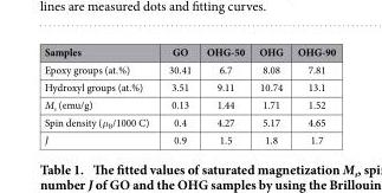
<table><thead><tr><td>Samples</td><td>GO</td><td>OHG-50</td><td>OHG</td><td>OHG-90</td></tr></thead><tbody><tr><td>Epoxy groups (at.%)</td><td>30.41</td><td>6.7</td><td>8.08</td><td>7.81</td></tr><tr><td>Hydroxyl groups (at.%)</td><td>3.51</td><td>9.11</td><td>10.74</td><td>13.1</td></tr><tr><td>M<sub>s</sub> (emu/g)</td><td>0.13</td><td>1.44</td><td>1.71</td><td>1.52</td></tr><tr><td>Spin density (μ<sub>B</sub>/1000 C)</td><td>0.4</td><td>4.27</td><td>5.17</td><td>4.65</td></tr><tr><td>J</td><td>0.9</td><td>1.5</td><td>1.8</td><td>1.7</td></tr></tbody></table>